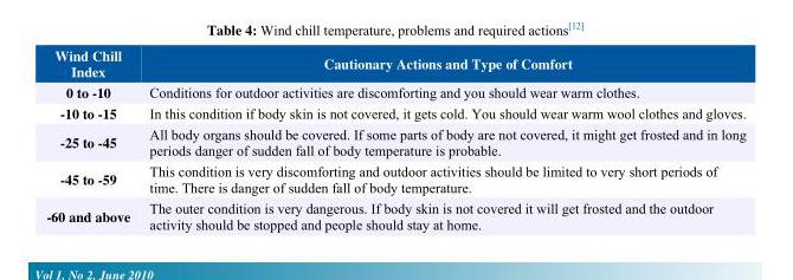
<table><thead><tr><td>Wind Chill Index</td><td>Cautionary Actions and Type of Comfort</td></tr></thead><tbody><tr><td>0 to -10</td><td>Conditions for outdoor activities are discomforting and you should wear warm clothes.</td></tr><tr><td>-10 to -15</td><td>In this condition if body skin is not covered, it gets cold. You should wear warm wool clothes and gloves.</td></tr><tr><td>-25 to -45</td><td>All body organs should be covered. If some parts of body are not covered, it might get frosted and in long periods danger of sudden fall of body temperature is probable.</td></tr><tr><td>-45 to -59</td><td>This condition is very discomforting and outdoor activities should be limited to very short periods of time. There is danger of sudden fall of body temperature.</td></tr><tr><td>-60 and above</td><td>The outer condition is very dangerous. If body skin is not covered it will get frosted and the outdoor activity should be stopped and people should stay at home.</td></tr></tbody></table>